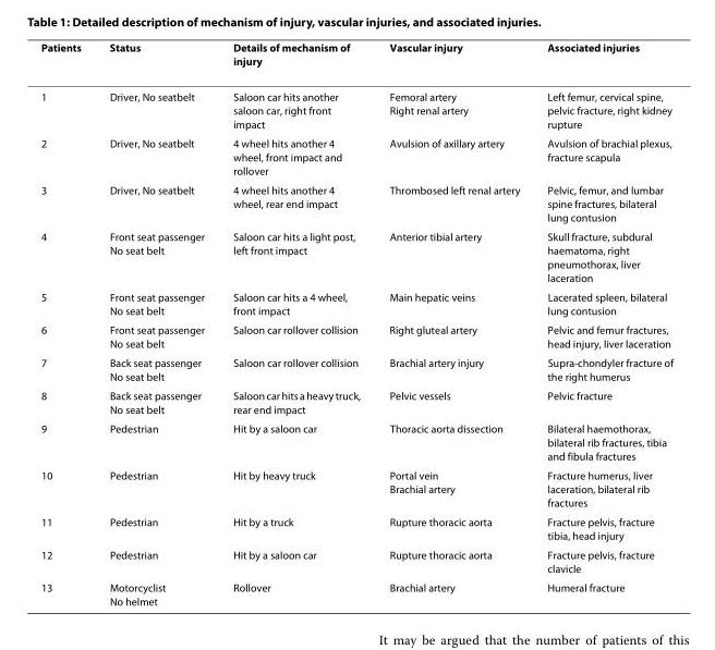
<table><thead><tr><td>Patients</td><td>Status</td><td>Details of mechanism of injury</td><td>Vascular injury</td><td>Associated injuries</td></tr></thead><tbody><tr><td>1</td><td>Driver, No seatbelt</td><td>Saloon car hits another saloon car, right front impact</td><td>Femoral artery Right renal artery</td><td>Left femur, cervical spine, pelvic fracture, right kidney rupture</td></tr><tr><td>2</td><td>Driver, No seatbelt</td><td>4 wheel hits another 4 wheel, front impact and rollover</td><td>Avulsion of axillary artery</td><td>Avulsion of brachial plexus, fracture scapula</td></tr><tr><td>3</td><td>Driver, No seatbelt</td><td>4 wheel hits another 4 wheel, rear end impact</td><td>Thrombosed left renal artery</td><td>Pelvic, femur, and lumbar spine fractures, bilateral lung contusion</td></tr><tr><td>4</td><td>Front seat passenger No seat belt</td><td>Saloon car hits a light post, left front impact</td><td>Anterior tibial artery</td><td>Skull fracture, subdural haematoma, right pneumothorax, liver laceration</td></tr><tr><td>5</td><td>Front seat passenger No seat belt</td><td>Saloon car hits a 4 wheel, front impact</td><td>Main hepatic veins</td><td>Lacerated spleen, bilateral lung contusion</td></tr><tr><td>6</td><td>Front seat passenger No seat belt</td><td>Saloon car rollover collision</td><td>Right gluteal artery</td><td>Pelvic and femur fractures, head injury, liver laceration</td></tr><tr><td>7</td><td>Back seat passenger No seat belt</td><td>Saloon car rollover collision</td><td>Brachial artery injury</td><td>Supra-chondyler fracture of the right humerus</td></tr><tr><td>8</td><td>Back seat passenger No seat belt</td><td>Saloon car hits a heavy truck, rear end impact</td><td>Pelvic vessels</td><td>Pelvic fracture</td></tr><tr><td>9</td><td>Pedestrian</td><td>Hit by a saloon car</td><td>Thoracic aorta dissection</td><td>Bilateral haemothorax, bilateral rib fractures, tibia and fibula fractures</td></tr><tr><td>10</td><td>Pedestrian</td><td>Hit by heavy truck</td><td>Portal vein Brachial artery</td><td>Fracture humerus, liver laceration, bilateral rib fractures</td></tr><tr><td>11</td><td>Pedestrian</td><td>Hit by a truck</td><td>Rupture thoracic aorta</td><td>Fracture pelvis, fracture tibia, head injury</td></tr><tr><td>12</td><td>Pedestrian</td><td>Hit by a saloon car</td><td>Rupture thoracic aorta</td><td>Fracture pelvis, fracture clavicle</td></tr><tr><td>13</td><td>Motorcyclist No helmet</td><td>Rollover</td><td>Brachial artery</td><td>Humeral fracture</td></tr></tbody></table>